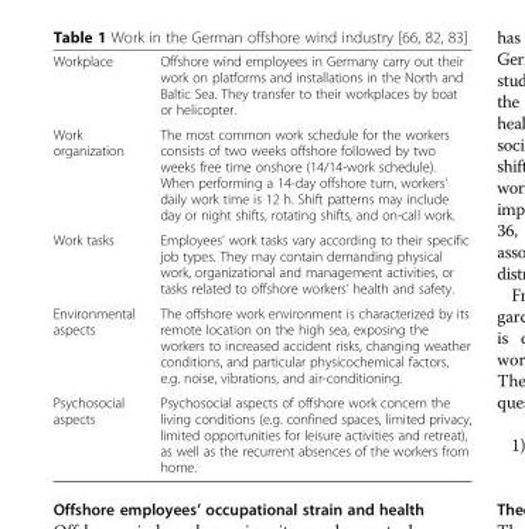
<table><tbody><tr><td>Workplace</td><td>Offshore wind employees in Germany carry out their work on platforms and installations in the North and Baltic Sea. They transfer to their workplaces by boat or helicopter.</td></tr><tr><td>Work organization</td><td>The most common work schedule for the workers consists of two weeks offshore followed by two weeks free time onshore (14/14-work schedule). When performing a 14-day offshore turn, workers’ daily work time is 12 h. Shift patterns may include day or night shifts, rotating shifts, and on-call work.</td></tr><tr><td>Work tasks</td><td>Employees’ work tasks vary according to their specific job types. They may contain demanding physical work, organizational and management activities, or tasks related to offshore workers’ health and safety.</td></tr><tr><td>Environmental aspects</td><td>The offshore work environment is characterized by its remote location on the high sea, exposing the workers to increased accident risks, changing weather conditions, and particular physicochemical factors, e.g. noise, vibrations, and air-conditioning.</td></tr><tr><td>Psychosocial aspects</td><td>Psychosocial aspects of offshore work concern the living conditions (e.g. confined spaces, limited privacy, limited opportunities for leisure activities and retreat), as well as the recurrent absences of the workers from home.</td></tr></tbody></table>